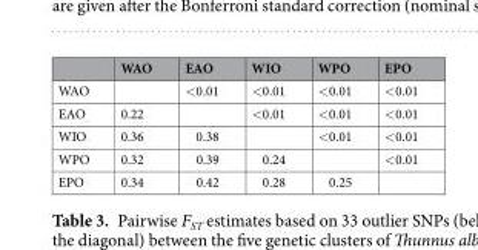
<table><thead><tr><td></td><td>WAO</td><td>EAO</td><td>WIO</td><td>WPO</td><td>EPO</td></tr></thead><tbody><tr><td>WAO</td><td></td><td>&lt;0.01</td><td>&lt;0.01</td><td>&lt;0.01</td><td>&lt;0.01</td></tr><tr><td>EAO</td><td>0.22</td><td></td><td>&lt;0.01</td><td>&lt;0.01</td><td>&lt;0.01</td></tr><tr><td>WIO</td><td>0.36</td><td>0.38</td><td></td><td>&lt;0.01</td><td>&lt;0.01</td></tr><tr><td>WPO</td><td>0.32</td><td>0.39</td><td>0.24</td><td></td><td>&lt;0.01</td></tr><tr><td>EPO</td><td>0.34</td><td>0.42</td><td>0.28</td><td>0.25</td><td></td></tr></tbody></table>